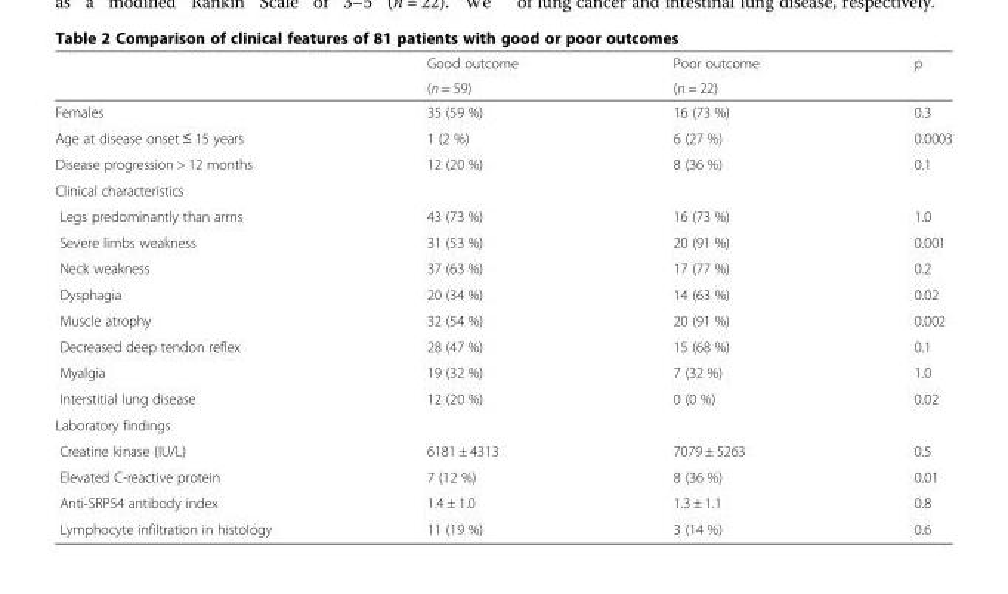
<table><thead><tr><td rowspan="2"></td><td rowspan="2">Good outcome (n = 59)</td><td rowspan="2">Poor outcome (n = 22)</td><td rowspan="2">p</td></tr><tr></tr></thead><tbody><tr><td>Females</td><td>35 (59 %)</td><td>16 (73 %)</td><td>0.3</td></tr><tr><td>Age at disease onset ≤ 15 years</td><td>1 (2 %)</td><td>6 (27 %)</td><td>0.0003</td></tr><tr><td>Disease progression &gt; 12 months</td><td>12 (20 %)</td><td>8 (36 %)</td><td>0.1</td></tr><tr><td colspan="4">Clinical characteristics</td></tr><tr><td>Legs predominantly than arms</td><td>43 (73 %)</td><td>16 (73 %)</td><td>1.0</td></tr><tr><td>Severe limbs weakness</td><td>31 (53 %)</td><td>20 (91 %)</td><td>0.001</td></tr><tr><td>Neck weakness</td><td>37 (63 %)</td><td>17 (77 %)</td><td>0.2</td></tr><tr><td>Dysphagia</td><td>20 (34 %)</td><td>14 (63 %)</td><td>0.02</td></tr><tr><td>Muscle atrophy</td><td>32 (54 %)</td><td>20 (91 %)</td><td>0.002</td></tr><tr><td>Decreased deep tendon reflex</td><td>28 (47 %)</td><td>15 (68 %)</td><td>0.1</td></tr><tr><td>Myalgia</td><td>19 (32 %)</td><td>7 (32 %)</td><td>1.0</td></tr><tr><td>Interstitial lung disease</td><td>12 (20 %)</td><td>0 (0 %)</td><td>0.02</td></tr><tr><td colspan="4">Laboratory findings</td></tr><tr><td>Creatine kinase (IU/L)</td><td>6181 ± 4313</td><td>7079 ± 5263</td><td>0.5</td></tr><tr><td>Elevated C-reactive protein</td><td>7 (12 %)</td><td>8 (36 %)</td><td>0.01</td></tr><tr><td>Anti-SRP54 antibody index</td><td>1.4 ± 1.0</td><td>1.3 ± 1.1</td><td>0.8</td></tr><tr><td>Lymphocyte infiltration in histology</td><td>11 (19 %)</td><td>3 (14 %)</td><td>0.6</td></tr></tbody></table>